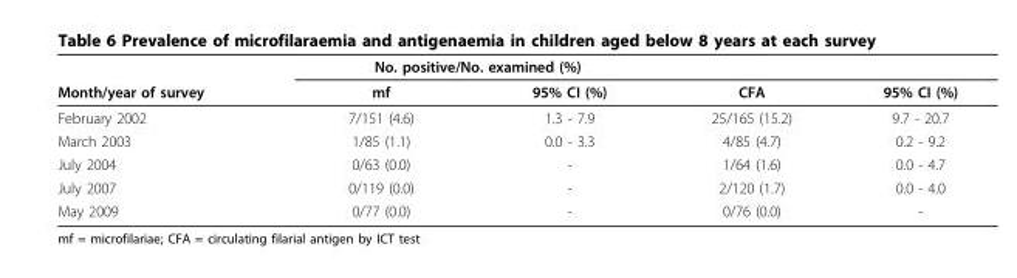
<table><thead><tr><td rowspan="2">Month/year of survey</td><td colspan="2">No. positive/No. examined (%)</td><td rowspan="2">CFA</td><td rowspan="2">95% CI (%)</td></tr><tr><td>mf</td><td>95% CI (%)</td></tr></thead><tbody><tr><td>February 2002</td><td>7/151 (4.6)</td><td>1.3 - 7.9</td><td>25/165 (15.2)</td><td>9.7 - 20.7</td></tr><tr><td>March 2003</td><td>1/85 (1.1)</td><td>0.0 - 3.3</td><td>4/85 (4.7)</td><td>0.2 - 9.2</td></tr><tr><td>July 2004</td><td>0/63 (0.0)</td><td>-</td><td>1/64 (1.6)</td><td>0.0 - 4.7</td></tr><tr><td>July 2007</td><td>0/119 (0.0)</td><td>-</td><td>2/120 (1.7)</td><td>0.0 - 4.0</td></tr><tr><td>May 2009</td><td>0/77 (0.0)</td><td>-</td><td>0/76 (0.0)</td><td>-</td></tr></tbody></table>